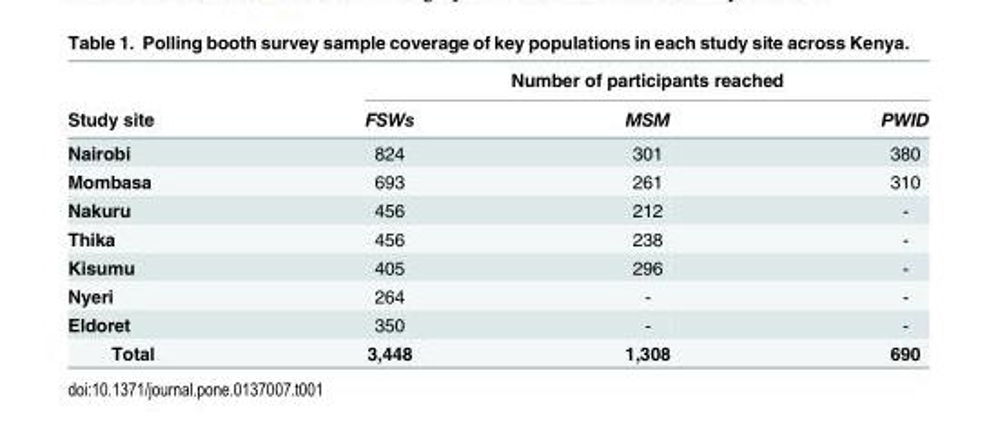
<table><thead><tr><td rowspan="2">Study site</td><td colspan="3">Number of participants reached</td></tr><tr><td>FSWs</td><td>MSM</td><td>PWID</td></tr></thead><tbody><tr><td>Nairobi</td><td>824</td><td>301</td><td>380</td></tr><tr><td>Mombasa</td><td>693</td><td>261</td><td>310</td></tr><tr><td>Nakuru</td><td>456</td><td>212</td><td>-</td></tr><tr><td>Thika</td><td>456</td><td>238</td><td>-</td></tr><tr><td>Kisumu</td><td>405</td><td>296</td><td>-</td></tr><tr><td>Nyeri</td><td>264</td><td>-</td><td>-</td></tr><tr><td>Eldoret</td><td>350</td><td>-</td><td>-</td></tr><tr><td>Total</td><td>3,448</td><td>1,308</td><td>690</td></tr></tbody></table>